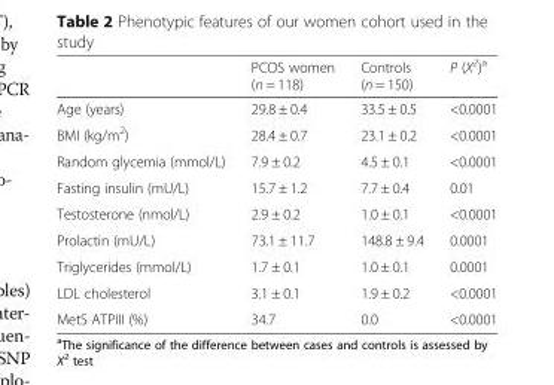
<table><thead><tr><td></td><td>PCOS women (n = 118)</td><td>Controls (n = 150)</td><td>P (X<sup>2</sup>)<sup>a</sup></td></tr></thead><tbody><tr><td>Age (years)</td><td>29.8 ± 0.4</td><td>33.5 ± 0.5</td><td>&lt;0.0001</td></tr><tr><td>BMI (kg/m<sup>2</sup>)</td><td>28.4 ± 0.7</td><td>23.1 ± 0.2</td><td>&lt;0.0001</td></tr><tr><td>Random glycemia (mmol/L)</td><td>7.9 ± 0.2</td><td>4.5 ± 0.1</td><td>&lt;0.0001</td></tr><tr><td>Fasting insulin (mU/L)</td><td>15.7 ± 1.2</td><td>7.7 ± 0.4</td><td>0.01</td></tr><tr><td>Testosterone (nmol/L)</td><td>2.9 ± 0.2</td><td>1.0 ± 0.1</td><td>&lt;0.0001</td></tr><tr><td>Prolactin (mU/L)</td><td>73.1 ± 11.7</td><td>148.8 ± 9.4</td><td>0.0001</td></tr><tr><td>Triglycerides (mmol/L)</td><td>1.7 ± 0.1</td><td>1.0 ± 0.1</td><td>0.0001</td></tr><tr><td>LDL cholesterol</td><td>3.1 ± 0.1</td><td>1.9 ± 0.2</td><td>&lt;0.0001</td></tr><tr><td>MetS ATPIII (%)</td><td>34.7</td><td>0.0</td><td>&lt;0.0001</td></tr></tbody></table>